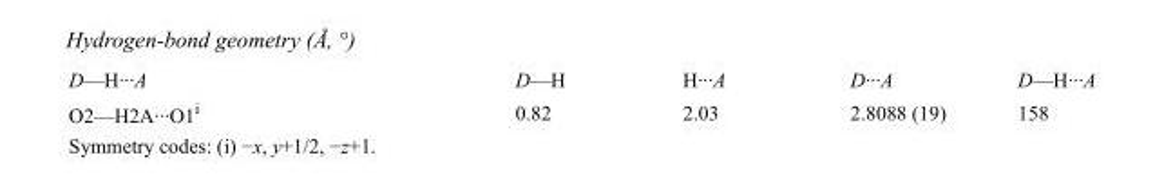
<table><tbody><tr><td>D—H···A</td><td>D—H</td><td>H···A</td><td>D···A</td><td>D—H···A</td></tr><tr><td>O2—H2A···O1<sup>i</sup></td><td>0.82</td><td>2.03</td><td>2.8088 (19)</td><td>158</td></tr></tbody></table>